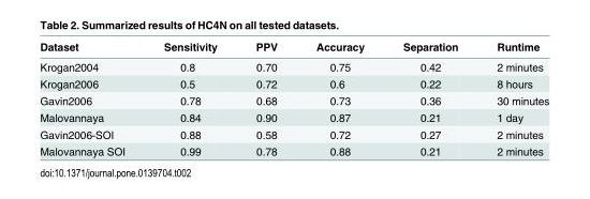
<table><thead><tr><td>Dataset</td><td>Sensitivity</td><td>PPV</td><td>Accuracy</td><td>Separation</td><td>Runtime</td></tr></thead><tbody><tr><td>Krogan2004</td><td>0.8</td><td>0.70</td><td>0.75</td><td>0.42</td><td>2 minutes</td></tr><tr><td>Krogan2006</td><td>0.5</td><td>0.72</td><td>0.6</td><td>0.22</td><td>8 hours</td></tr><tr><td>Gavin2006</td><td>0.78</td><td>0.68</td><td>0.73</td><td>0.36</td><td>30 minutes</td></tr><tr><td>Malovannaya</td><td>0.84</td><td>0.90</td><td>0.87</td><td>0.21</td><td>1 day</td></tr><tr><td>Gavin2006-SOI</td><td>0.88</td><td>0.58</td><td>0.72</td><td>0.27</td><td>2 minutes</td></tr><tr><td>Malovannaya SOI</td><td>0.99</td><td>0.78</td><td>0.88</td><td>0.21</td><td>2 minutes</td></tr></tbody></table>